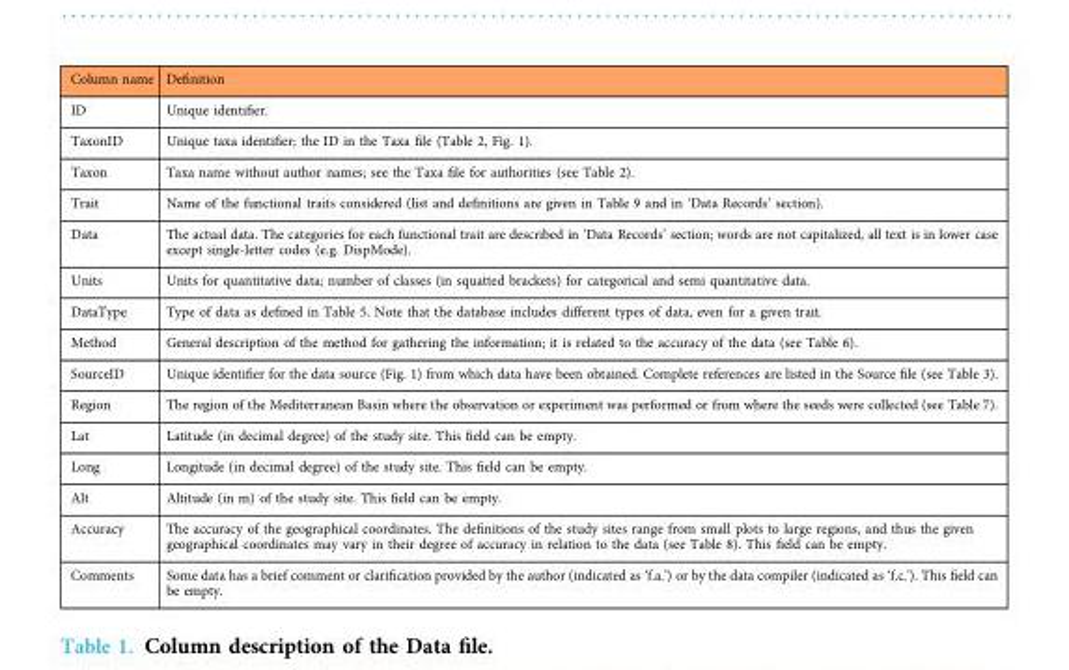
<table><thead><tr><td>Column name</td><td>Definition</td></tr></thead><tbody><tr><td>ID</td><td>Unique identifier.</td></tr><tr><td>TaxonID</td><td>Unique taxa identifier; the ID in the Taxa file (Table 2, Fig. 1).</td></tr><tr><td>Taxon</td><td>Taxa name without author names; see the Taxa file for authorities (see Table 2).</td></tr><tr><td>Trait</td><td>Name of the functional traits considered (list and definitions are given in Table 9 and in ‘Data Records’ section).</td></tr><tr><td>Data</td><td>The actual data. The categories for each functional trait are described in ‘Data Records’ section; words are not capitalized, all text is in lower case except single-letter codes (e.g. DispMode).</td></tr><tr><td>Units</td><td>Units for quantitative data; number of classes (in squatted brackets) for categorical and semi quantitative data.</td></tr><tr><td>DataType</td><td>Type of data as defined in Table 5. Note that the database includes different types of data, even for a given trait.</td></tr><tr><td>Method</td><td>General description of the method for gathering the information; it is related to the accuracy of the data (see Table 6).</td></tr><tr><td>SourceID</td><td>Unique identifier for the data source (Fig. 1) from which data have been obtained. Complete references are listed in the Source file (see Table 3).</td></tr><tr><td>Region</td><td>The region of the Mediterranean Basin where the observation or experiment was performed or from where the seeds were collected (see Table 7).</td></tr><tr><td>Lat</td><td>Latitude (in decimal degree) of the study site. This field can be empty.</td></tr><tr><td>Long</td><td>Longitude (in decimal degree) of the study site. This field can be empty.</td></tr><tr><td>Alt</td><td>Altitude (in m) of the study site. This field can be empty.</td></tr><tr><td>Accuracy</td><td>The accuracy of the geographical coordinates. The definitions of the study sites range from small plots to large regions, and thus the given geographical coordinates may vary in their degree of accuracy in relation to the data (see Table 8). This field can be empty.</td></tr><tr><td>Comments</td><td>Some data has a brief comment or clarification provided by the author (indicated as ‘f.a.’) or by the data compiler (indicated as ‘f.c.’). This field can be empty.</td></tr></tbody></table>